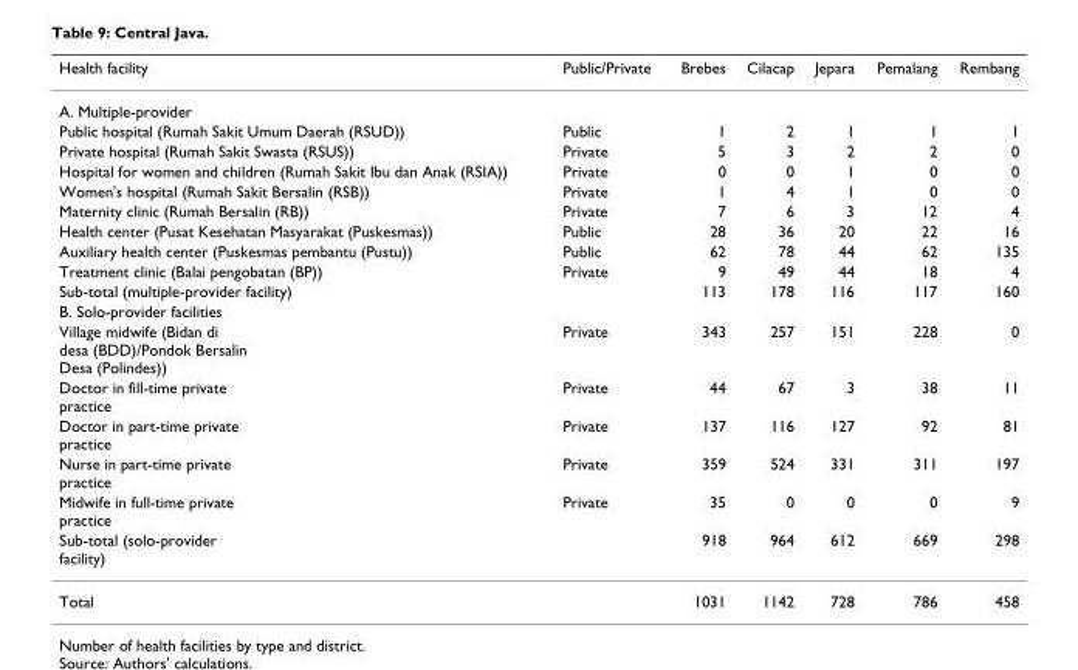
<table><thead><tr><td>Health facility</td><td>Public/Private</td><td>Brebes</td><td>Cilacap</td><td>Jepara</td><td>Pemalang</td><td>Rembang</td></tr></thead><tbody><tr><td colspan="7">A. Multiple-provider</td></tr><tr><td>Public hospital (Rumah Sakit Umum Daerah (RSUD))</td><td>Public</td><td>1</td><td>2</td><td>1</td><td>1</td><td>1</td></tr><tr><td>Private hospital (Rumah Sakit Swasta (RSUS))</td><td>Private</td><td>5</td><td>3</td><td>2</td><td>2</td><td>0</td></tr><tr><td>Hospital for women and children (Rumah Sakit Ibu dan Anak (RSIA))</td><td>Private</td><td>0</td><td>0</td><td>1</td><td>0</td><td>0</td></tr><tr><td>Women&#x27;s hospital (Rumah Sakit Bersalin (RSB))</td><td>Private</td><td>1</td><td>4</td><td>1</td><td>0</td><td>0</td></tr><tr><td>Maternity clinic (Rumah Bersalin (RB))</td><td>Private</td><td>7</td><td>6</td><td>3</td><td>12</td><td>4</td></tr><tr><td>Health center (Pusat Kesehatan Masyarakat (Puskesmas))</td><td>Public</td><td>28</td><td>36</td><td>20</td><td>22</td><td>16</td></tr><tr><td>Auxiliary health center (Puskesmas pembantu (Pustu))</td><td>Public</td><td>62</td><td>78</td><td>44</td><td>62</td><td>135</td></tr><tr><td>Treatment clinic (Balai pengobatan (BP))</td><td>Private</td><td>9</td><td>49</td><td>44</td><td>18</td><td>4</td></tr><tr><td>Sub-total (multiple-provider facility)</td><td></td><td>113</td><td>178</td><td>116</td><td>117</td><td>160</td></tr><tr><td colspan="7">B. Solo-provider facilities</td></tr><tr><td>Village midwife (Bidan di desa (BDD)/Pondok Bersalin Desa (Polindes))</td><td>Private</td><td>343</td><td>257</td><td>151</td><td>228</td><td>0</td></tr><tr><td>Doctor in fill-time private practice</td><td>Private</td><td>44</td><td>67</td><td>3</td><td>38</td><td>11</td></tr><tr><td>Doctor in part-time private practice</td><td>Private</td><td>137</td><td>116</td><td>127</td><td>92</td><td>81</td></tr><tr><td>Nurse in part-time private practice</td><td>Private</td><td>359</td><td>524</td><td>331</td><td>311</td><td>197</td></tr><tr><td>Midwife in full-time private practice</td><td>Private</td><td>35</td><td>0</td><td>0</td><td>0</td><td>9</td></tr><tr><td>Sub-total (solo-provider facility)</td><td></td><td>918</td><td>964</td><td>612</td><td>669</td><td>298</td></tr><tr><td>Total</td><td></td><td>1031</td><td>1142</td><td>728</td><td>786</td><td>458</td></tr></tbody></table>